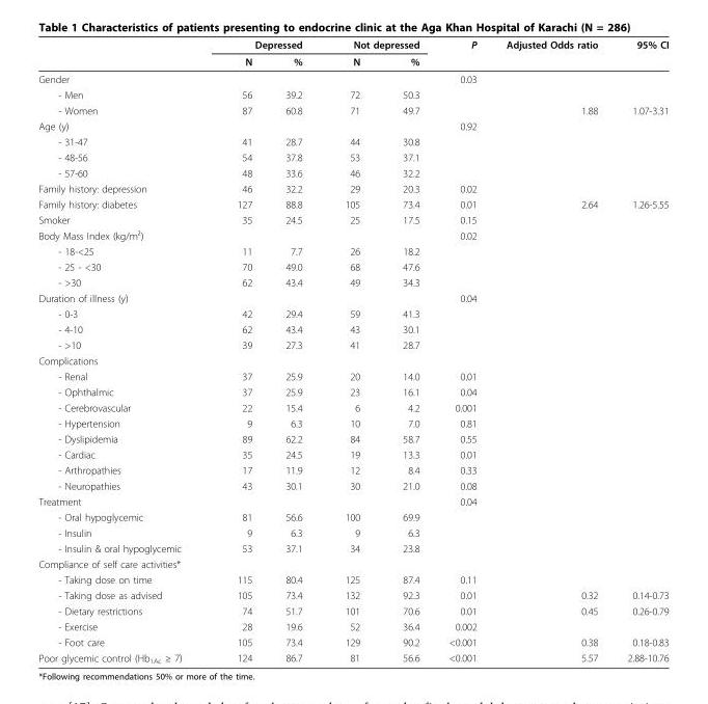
<table><thead><tr><td rowspan="2"></td><td colspan="2">Depressed</td><td colspan="2">Not depressed</td><td rowspan="2">P</td><td rowspan="2">Adjusted Odds ratio</td><td rowspan="2">95% CI</td></tr><tr><td>N</td><td>%</td><td>N</td><td>%</td></tr></thead><tbody><tr><td>Gender</td><td></td><td></td><td></td><td></td><td>0.03</td><td></td><td></td></tr><tr><td>- Men</td><td>56</td><td>39.2</td><td>72</td><td>50.3</td><td></td><td></td><td></td></tr><tr><td>- Women</td><td>87</td><td>60.8</td><td>71</td><td>49.7</td><td></td><td>1.88</td><td>1.07-3.31</td></tr><tr><td>Age (y)</td><td></td><td></td><td></td><td></td><td>0.92</td><td></td><td></td></tr><tr><td>- 31-47</td><td>41</td><td>28.7</td><td>44</td><td>30.8</td><td></td><td></td><td></td></tr><tr><td>- 48-56</td><td>54</td><td>37.8</td><td>53</td><td>37.1</td><td></td><td></td><td></td></tr><tr><td>- 57-60</td><td>48</td><td>33.6</td><td>46</td><td>32.2</td><td></td><td></td><td></td></tr><tr><td>Family history: depression</td><td>46</td><td>32.2</td><td>29</td><td>20.3</td><td>0.02</td><td></td><td></td></tr><tr><td>Family history: diabetes</td><td>127</td><td>88.8</td><td>105</td><td>73.4</td><td>0.01</td><td>2.64</td><td>1.26-5.55</td></tr><tr><td>Smoker</td><td>35</td><td>24.5</td><td>25</td><td>17.5</td><td>0.15</td><td></td><td></td></tr><tr><td>Body Mass Index (kg/m²)</td><td></td><td></td><td></td><td></td><td>0.02</td><td></td><td></td></tr><tr><td>- 18-&lt;25</td><td>11</td><td>7.7</td><td>26</td><td>18.2</td><td></td><td></td><td></td></tr><tr><td>- 25 - &lt;30</td><td>70</td><td>49.0</td><td>68</td><td>47.6</td><td></td><td></td><td></td></tr><tr><td>- &gt;30</td><td>62</td><td>43.4</td><td>49</td><td>34.3</td><td></td><td></td><td></td></tr><tr><td>Duration of illness (y)</td><td></td><td></td><td></td><td></td><td>0.04</td><td></td><td></td></tr><tr><td>- 0-3</td><td>42</td><td>29.4</td><td>59</td><td>41.3</td><td></td><td></td><td></td></tr><tr><td>- 4-10</td><td>62</td><td>43.4</td><td>43</td><td>30.1</td><td></td><td></td><td></td></tr><tr><td>- &gt;10</td><td>39</td><td>27.3</td><td>41</td><td>28.7</td><td></td><td></td><td></td></tr><tr><td colspan="8">Complications</td></tr><tr><td>- Renal</td><td>37</td><td>25.9</td><td>20</td><td>14.0</td><td>0.01</td><td></td><td></td></tr><tr><td>- Ophthalmic</td><td>37</td><td>25.9</td><td>23</td><td>16.1</td><td>0.04</td><td></td><td></td></tr><tr><td>- Cerebrovascular</td><td>22</td><td>15.4</td><td>6</td><td>4.2</td><td>0.001</td><td></td><td></td></tr><tr><td>- Hypertension</td><td>9</td><td>6.3</td><td>10</td><td>7.0</td><td>0.81</td><td></td><td></td></tr><tr><td>- Dyslipidemia</td><td>89</td><td>62.2</td><td>84</td><td>58.7</td><td>0.55</td><td></td><td></td></tr><tr><td>- Cardiac</td><td>35</td><td>24.5</td><td>19</td><td>13.3</td><td>0.01</td><td></td><td></td></tr><tr><td>- Arthropathies</td><td>17</td><td>11.9</td><td>12</td><td>8.4</td><td>0.33</td><td></td><td></td></tr><tr><td>- Neuropathies</td><td>43</td><td>30.1</td><td>30</td><td>21.0</td><td>0.08</td><td></td><td></td></tr><tr><td>Treatment</td><td></td><td></td><td></td><td></td><td>0.04</td><td></td><td></td></tr><tr><td>- Oral hypoglycemic</td><td>81</td><td>56.6</td><td>100</td><td>69.9</td><td></td><td></td><td></td></tr><tr><td>- Insulin</td><td>9</td><td>6.3</td><td>9</td><td>6.3</td><td></td><td></td><td></td></tr><tr><td>- Insulin &amp; oral hypoglycemic</td><td>53</td><td>37.1</td><td>34</td><td>23.8</td><td></td><td></td><td></td></tr><tr><td colspan="8">Compliance of self care activities*</td></tr><tr><td>- Taking dose on time</td><td>115</td><td>80.4</td><td>125</td><td>87.4</td><td>0.11</td><td></td><td></td></tr><tr><td>- Taking dose as advised</td><td>105</td><td>73.4</td><td>132</td><td>92.3</td><td>0.01</td><td>0.32</td><td>0.14-0.73</td></tr><tr><td>- Dietary restrictions</td><td>74</td><td>51.7</td><td>101</td><td>70.6</td><td>0.01</td><td>0.45</td><td>0.26-0.79</td></tr><tr><td>- Exercise</td><td>28</td><td>19.6</td><td>52</td><td>36.4</td><td>0.002</td><td></td><td></td></tr><tr><td>- Foot care</td><td>105</td><td>73.4</td><td>129</td><td>90.2</td><td>&lt;0.001</td><td>0.38</td><td>0.18-0.83</td></tr><tr><td>Poor glycemic control (Hb<sub>1Ac</sub> ≥ 7)</td><td>124</td><td>86.7</td><td>81</td><td>56.6</td><td>&lt;0.001</td><td>5.57</td><td>2.88-10.76</td></tr></tbody></table>